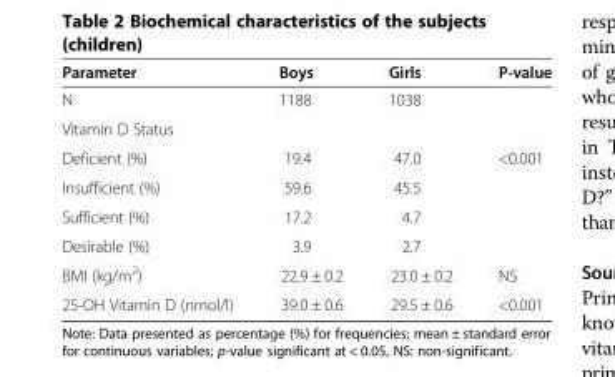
<table><thead><tr><td>Parameter</td><td>Boys</td><td>Girls</td><td>P-value</td></tr></thead><tbody><tr><td>N</td><td>1188</td><td>1038</td><td></td></tr><tr><td colspan="4">Vitamin D Status</td></tr><tr><td>Deficient (%)</td><td>19.4</td><td>47.0</td><td rowspan="4">&lt;0.001</td></tr><tr><td>Insufficient (%)</td><td>59.6</td><td>45.5</td></tr><tr><td>Sufficient (%)</td><td>17.2</td><td>4.7</td></tr><tr><td>Desirable (%)</td><td>3.9</td><td>2.7</td></tr><tr><td>BMI (kg/m<sup>2</sup>)</td><td>22.9 ± 0.2</td><td>23.0 ± 0.2</td><td>NS</td></tr><tr><td>25-OH Vitamin D (nmol/l)</td><td>39.0 ± 0.6</td><td>29.5 ± 0.6</td><td>&lt;0.001</td></tr></tbody></table>